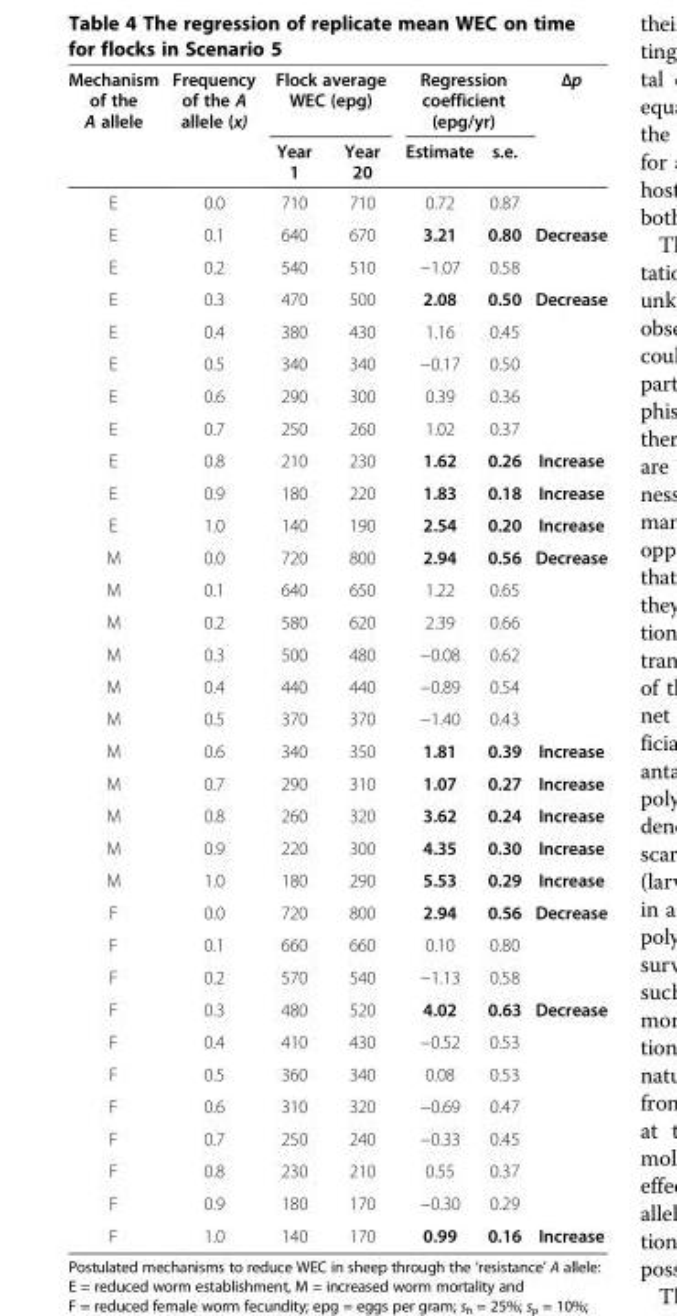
<table><thead><tr><td rowspan="2">Mechanism of the A allele</td><td rowspan="2">Frequency of the A allele (x)</td><td colspan="2">Flock average WEC (epg)</td><td colspan="2">Regression coefficient (epg/yr)</td><td rowspan="2">Δp</td></tr><tr><td>Year 1</td><td>Year 20</td><td>Estimate</td><td>s.e.</td></tr></thead><tbody><tr><td>E</td><td>0.0</td><td>710</td><td>710</td><td>0.72</td><td>0.87</td><td></td></tr><tr><td>E</td><td>0.1</td><td>640</td><td>670</td><td>3.21</td><td>0.80</td><td>Decrease</td></tr><tr><td>E</td><td>0.2</td><td>540</td><td>510</td><td>−1.07</td><td>0.58</td><td></td></tr><tr><td>E</td><td>0.3</td><td>470</td><td>500</td><td>2.08</td><td>0.50</td><td>Decrease</td></tr><tr><td>E</td><td>0.4</td><td>380</td><td>430</td><td>1.16</td><td>0.45</td><td></td></tr><tr><td>E</td><td>0.5</td><td>340</td><td>340</td><td>−0.17</td><td>0.50</td><td></td></tr><tr><td>E</td><td>0.6</td><td>290</td><td>300</td><td>0.39</td><td>0.36</td><td></td></tr><tr><td>E</td><td>0.7</td><td>250</td><td>260</td><td>1.02</td><td>0.37</td><td></td></tr><tr><td>E</td><td>0.8</td><td>210</td><td>230</td><td>1.62</td><td>0.26</td><td>Increase</td></tr><tr><td>E</td><td>0.9</td><td>180</td><td>220</td><td>1.83</td><td>0.18</td><td>Increase</td></tr><tr><td>E</td><td>1.0</td><td>140</td><td>190</td><td>2.54</td><td>0.20</td><td>Increase</td></tr><tr><td>M</td><td>0.0</td><td>720</td><td>800</td><td>2.94</td><td>0.56</td><td>Decrease</td></tr><tr><td>M</td><td>0.1</td><td>640</td><td>650</td><td>1.22</td><td>0.65</td><td></td></tr><tr><td>M</td><td>0.2</td><td>580</td><td>620</td><td>2.39</td><td>0.66</td><td></td></tr><tr><td>M</td><td>0.3</td><td>500</td><td>480</td><td>−0.08</td><td>0.62</td><td></td></tr><tr><td>M</td><td>0.4</td><td>440</td><td>440</td><td>−0.89</td><td>0.54</td><td></td></tr><tr><td>M</td><td>0.5</td><td>370</td><td>370</td><td>−1.40</td><td>0.43</td><td></td></tr><tr><td>M</td><td>0.6</td><td>340</td><td>350</td><td>1.81</td><td>0.39</td><td>Increase</td></tr><tr><td>M</td><td>0.7</td><td>290</td><td>310</td><td>1.07</td><td>0.27</td><td>Increase</td></tr><tr><td>M</td><td>0.8</td><td>260</td><td>320</td><td>3.62</td><td>0.24</td><td>Increase</td></tr><tr><td>M</td><td>0.9</td><td>220</td><td>300</td><td>4.35</td><td>0.30</td><td>Increase</td></tr><tr><td>M</td><td>1.0</td><td>180</td><td>290</td><td>5.53</td><td>0.29</td><td>Increase</td></tr><tr><td>F</td><td>0.0</td><td>720</td><td>800</td><td>2.94</td><td>0.56</td><td>Decrease</td></tr><tr><td>F</td><td>0.1</td><td>660</td><td>660</td><td>0.10</td><td>0.80</td><td></td></tr><tr><td>F</td><td>0.2</td><td>570</td><td>540</td><td>−1.13</td><td>0.58</td><td></td></tr><tr><td>F</td><td>0.3</td><td>480</td><td>520</td><td>4.02</td><td>0.63</td><td>Decrease</td></tr><tr><td>F</td><td>0.4</td><td>410</td><td>430</td><td>−0.52</td><td>0.53</td><td></td></tr><tr><td>F</td><td>0.5</td><td>360</td><td>340</td><td>0.08</td><td>0.53</td><td></td></tr><tr><td>F</td><td>0.6</td><td>310</td><td>320</td><td>−0.69</td><td>0.47</td><td></td></tr><tr><td>F</td><td>0.7</td><td>250</td><td>240</td><td>−0.33</td><td>0.45</td><td></td></tr><tr><td>F</td><td>0.8</td><td>230</td><td>210</td><td>0.55</td><td>0.37</td><td></td></tr><tr><td>F</td><td>0.9</td><td>180</td><td>170</td><td>−0.30</td><td>0.29</td><td></td></tr><tr><td>F</td><td>1.0</td><td>140</td><td>170</td><td>0.99</td><td>0.16</td><td>Increase</td></tr></tbody></table>